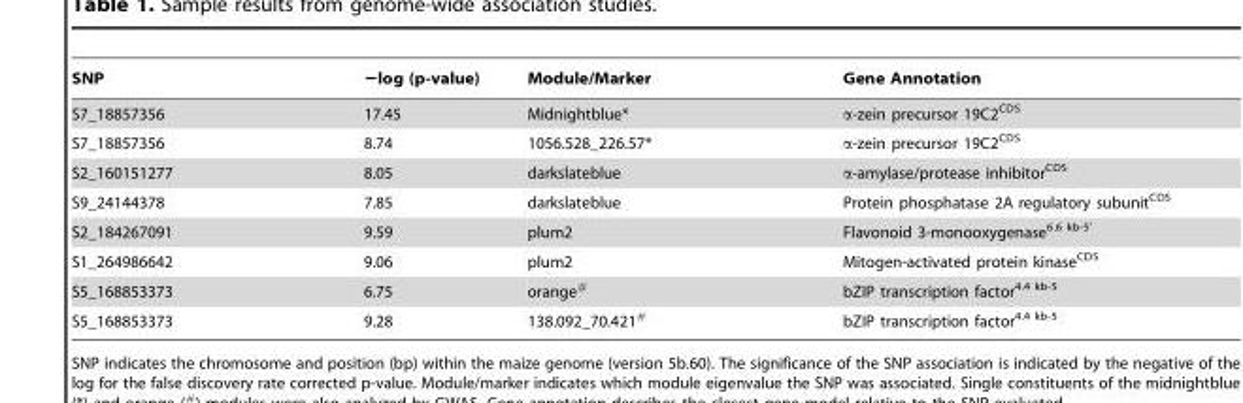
<table><thead><tr><td>SNP</td><td>−log (p-value)</td><td>Module/Marker</td><td>Gene Annotation</td></tr></thead><tbody><tr><td>S7_18857356</td><td>17.45</td><td>Midnightblue*</td><td>α-zein precursor 19C2<sup>CDS</sup></td></tr><tr><td>S7_18857356</td><td>8.74</td><td>1056.528_226.57*</td><td>α-zein precursor 19C2<sup>CDS</sup></td></tr><tr><td>S2_160151277</td><td>8.05</td><td>darkslateblue</td><td>α-amylase/protease inhibitor<sup>CDS</sup></td></tr><tr><td>S9_24144378</td><td>7.85</td><td>darkslateblue</td><td>Protein phosphatase 2A regulatory subunit<sup>CDS</sup></td></tr><tr><td>S2_184267091</td><td>9.59</td><td>plum2</td><td>Flavonoid 3-monooxygenase<sup>6.6 kb-5′</sup></td></tr><tr><td>S1_264986642</td><td>9.06</td><td>plum2</td><td>Mitogen-activated protein kinase<sup>CDS</sup></td></tr><tr><td>S5_168853373</td><td>6.75</td><td>orange<sup>#</sup></td><td>bZIP transcription factor<sup>4.4 kb-5</sup></td></tr><tr><td>S5_168853373</td><td>9.28</td><td>138.092_70.421<sup>#</sup></td><td>bZIP transcription factor<sup>4.4 kb-5</sup></td></tr></tbody></table>